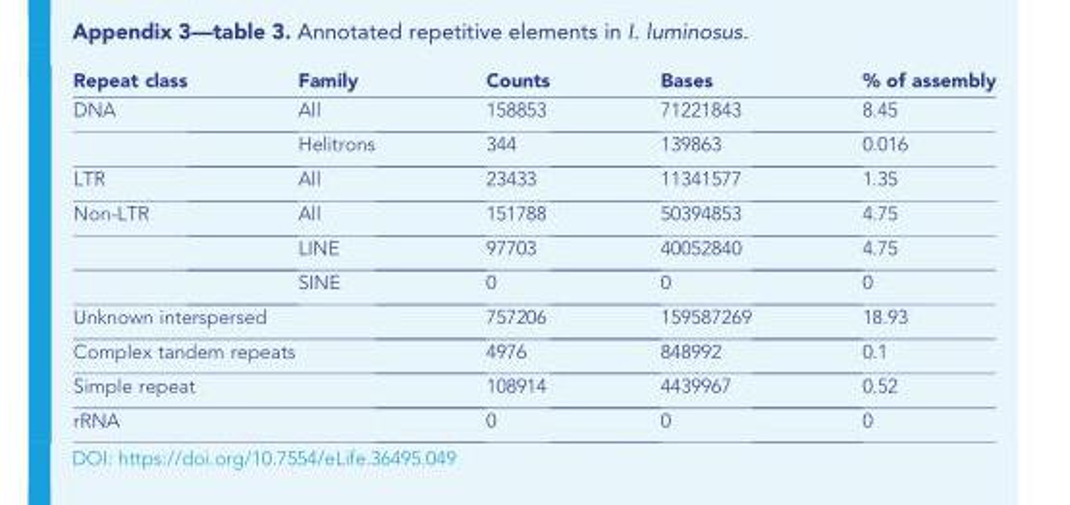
<table><thead><tr><td>Repeat class</td><td>Family</td><td>Counts</td><td>Bases</td><td>% of assembly</td></tr></thead><tbody><tr><td rowspan="2">DNA</td><td>All</td><td>158853</td><td>71221843</td><td>8.45</td></tr><tr><td>Helitrons</td><td>344</td><td>139863</td><td>0.016</td></tr><tr><td>LTR</td><td>All</td><td>23433</td><td>11341577</td><td>1.35</td></tr><tr><td rowspan="3">Non-LTR</td><td>All</td><td>151788</td><td>50394853</td><td>4.75</td></tr><tr><td>LINE</td><td>97703</td><td>40052840</td><td>4.75</td></tr><tr><td>SINE</td><td>0</td><td>0</td><td>0</td></tr><tr><td colspan="2">Unknown interspersed</td><td>757206</td><td>159587269</td><td>18.93</td></tr><tr><td colspan="2">Complex tandem repeats</td><td>4976</td><td>848992</td><td>0.1</td></tr><tr><td colspan="2">Simple repeat</td><td>108914</td><td>4439967</td><td>0.52</td></tr><tr><td colspan="2">rRNA</td><td>0</td><td>0</td><td>0</td></tr></tbody></table>